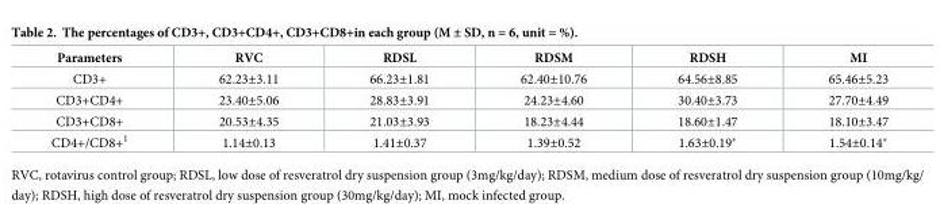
<table><thead><tr><td>Parameters</td><td>RVC</td><td>RDSL</td><td>RDSM</td><td>RDSH</td><td>MI</td></tr></thead><tbody><tr><td>CD3+</td><td>62.23±3.11</td><td>66.23±1.81</td><td>62.40±10.76</td><td>64.56±8.85</td><td>65.46±5.23</td></tr><tr><td>CD3+CD4+</td><td>23.40±5.06</td><td>28.83±3.91</td><td>24.23±4.60</td><td>30.40±3.73</td><td>27.70±4.49</td></tr><tr><td>CD3+CD8+</td><td>20.53±4.35</td><td>21.03±3.93</td><td>18.23±4.44</td><td>18.60±1.47</td><td>18.10±3.47</td></tr><tr><td>CD4+/CD8+<sup>1</sup></td><td>1.14±0.13</td><td>1.41±0.37</td><td>1.39±0.52</td><td>1.63±0.19*</td><td>1.54±0.14*</td></tr></tbody></table>